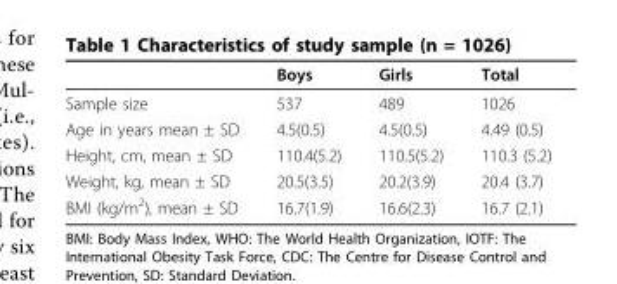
<table><thead><tr><td></td><td>Boys</td><td>Girls</td><td>Total</td></tr></thead><tbody><tr><td>Sample size</td><td>537</td><td>489</td><td>1026</td></tr><tr><td>Age in years mean ± SD</td><td>4.5(0.5)</td><td>4.5(0.5)</td><td>4.49 (0.5)</td></tr><tr><td>Height, cm, mean ± SD</td><td>110.4(5.2)</td><td>110.5(5.2)</td><td>110.3 (5.2)</td></tr><tr><td>Weight, kg, mean ± SD</td><td>20.5(3.5)</td><td>20.2(3.9)</td><td>20.4 (3.7)</td></tr><tr><td>BMI (kg/m<sup>2</sup>), mean ± SD</td><td>16.7(1.9)</td><td>16.6(2.3)</td><td>16.7 (2.1)</td></tr></tbody></table>